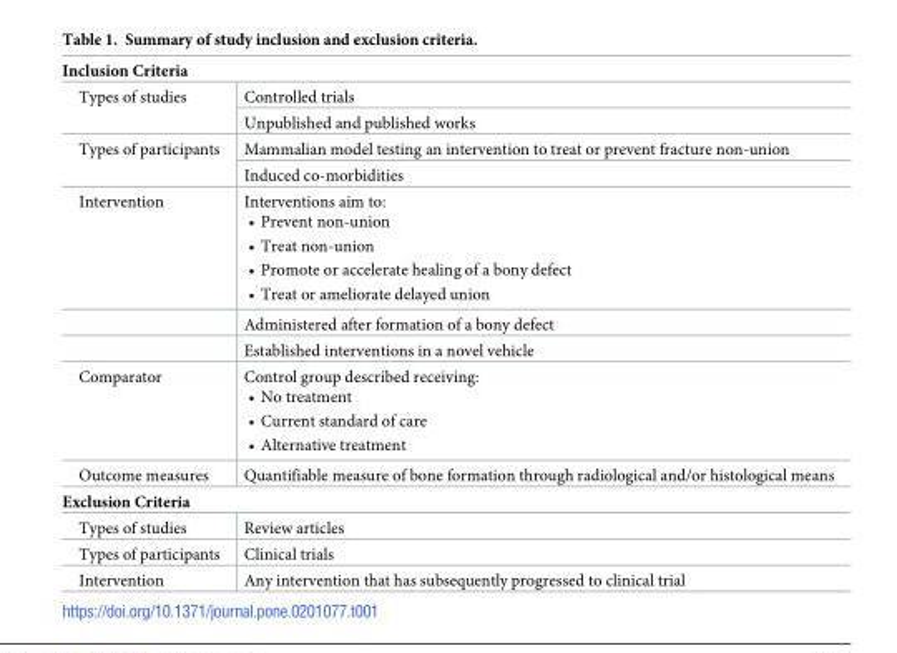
<table><tbody><tr><td colspan="2">Inclusion Criteria</td></tr><tr><td rowspan="2">Types of studies</td><td>Controlled trials</td></tr><tr><td>Unpublished and published works</td></tr><tr><td rowspan="2">Types of participants</td><td>Mammalian model testing an intervention to treat or prevent fracture non-union</td></tr><tr><td>Induced co-morbidities</td></tr><tr><td rowspan="3">Intervention</td><td>Interventions aim to: • Prevent non-union • Treat non-union • Promote or accelerate healing of a bony defect • Treat or ameliorate delayed union</td></tr><tr><td>Administered after formation of a bony defect</td></tr><tr><td>Established interventions in a novel vehicle</td></tr><tr><td>Comparator</td><td>Control group described receiving: • No treatment • Current standard of care • Alternative treatment</td></tr><tr><td>Outcome measures</td><td>Quantifiable measure of bone formation through radiological and/or histological means</td></tr><tr><td colspan="2">Exclusion Criteria</td></tr><tr><td>Types of studies</td><td>Review articles</td></tr><tr><td>Types of participants</td><td>Clinical trials</td></tr><tr><td>Intervention</td><td>Any intervention that has subsequently progressed to clinical trial</td></tr></tbody></table>